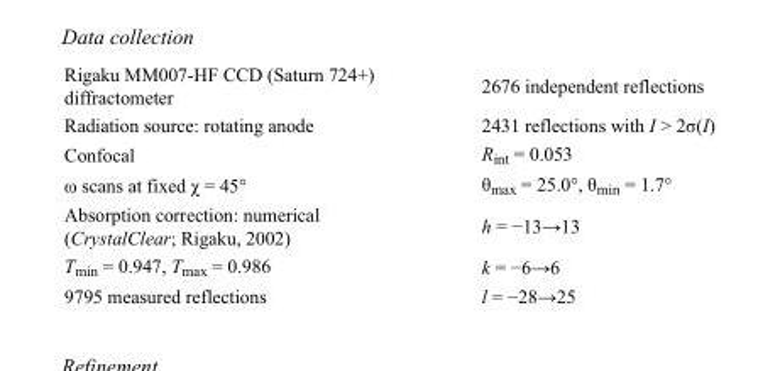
<table><tbody><tr><td>Rigaku MM007-HF CCD (Saturn 724+) diffractometer</td><td>2676 independent reflections</td></tr><tr><td>Radiation source: rotating anode</td><td>2431 reflections with I &gt; 2σ(I)</td></tr><tr><td>Confocal</td><td>R<sub>int</sub> = 0.053</td></tr><tr><td>ω scans at fixed χ = 45°</td><td>θ<sub>max</sub> = 25.0°, θ<sub>min</sub> = 1.7°</td></tr><tr><td>Absorption correction: numerical (CrystalClear; Rigaku, 2002)</td><td>h = −13→13</td></tr><tr><td>T<sub>min</sub> = 0.947, T<sub>max</sub> = 0.986</td><td>k = −6→6</td></tr><tr><td>9795 measured reflections</td><td>l = −28→25</td></tr></tbody></table>